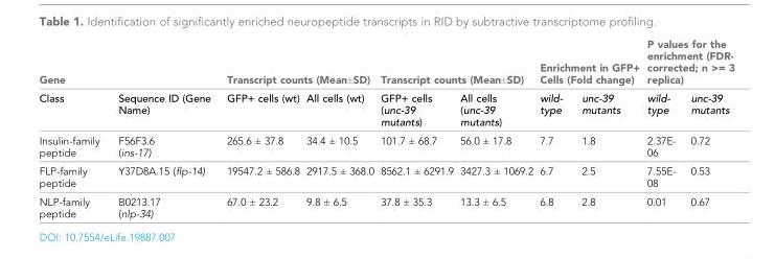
<table><thead><tr><td colspan="2">Gene</td><td colspan="2">Transcript counts (Mean±SD)</td><td colspan="2">Transcript counts (Mean±SD)</td><td colspan="2">Enrichment in GFP+ Cells (Fold change)</td><td colspan="2">P values for the enrichment (FDR- corrected; n &gt;= 3 replica)</td></tr><tr><td>Class</td><td>Sequence ID (Gene Name)</td><td>GFP+ cells (wt)</td><td>All cells (wt)</td><td>GFP+ cells (unc-39 mutants)</td><td>All cells (unc-39 mutants)</td><td>wild- type</td><td>unc-39 mutants</td><td>wild- type</td><td>unc-39 mutants</td></tr></thead><tbody><tr><td>Insulin-family peptide</td><td>F56F3.6 (ins-17)</td><td>265.6 ± 37.8</td><td>34.4 ± 10.5</td><td>101.7 ± 68.7</td><td>56.0 ± 17.8</td><td>7.7</td><td>1.8</td><td>2.37E- 06</td><td>0.72</td></tr><tr><td>FLP-family peptide</td><td>Y37D8A.15 (flp-14)</td><td>19547.2 ± 586.8</td><td>2917.5 ± 368.0</td><td>8562.1 ± 6291.9</td><td>3427.3 ± 1069.2</td><td>6.7</td><td>2.5</td><td>7.55E- 08</td><td>0.53</td></tr><tr><td>NLP-family peptide</td><td>B0213.17 (nlp-34)</td><td>67.0 ± 23.2</td><td>9.8 ± 6.5</td><td>37.8 ± 35.3</td><td>13.3 ± 6.5</td><td>6.8</td><td>2.8</td><td>0.01</td><td>0.67</td></tr></tbody></table>